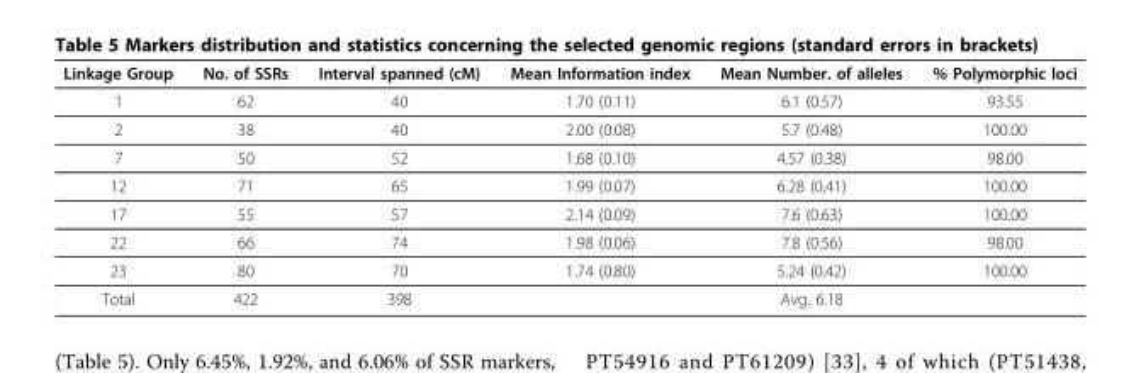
<table><thead><tr><td>Linkage Group</td><td>No. of SSRs</td><td>Interval spanned (cM)</td><td>Mean Information index</td><td>Mean Number. of alleles</td><td>% Polymorphic loci</td></tr></thead><tbody><tr><td>1</td><td>62</td><td>40</td><td>1.70 (0.11)</td><td>6.1 (0.57)</td><td>93.55</td></tr><tr><td>2</td><td>38</td><td>40</td><td>2.00 (0.08)</td><td>5.7 (0.48)</td><td>100.00</td></tr><tr><td>7</td><td>50</td><td>52</td><td>1.68 (0.10)</td><td>4.57 (0.38)</td><td>98.00</td></tr><tr><td>12</td><td>71</td><td>65</td><td>1.99 (0.07)</td><td>6.28 (0,41)</td><td>100.00</td></tr><tr><td>17</td><td>55</td><td>57</td><td>2.14 (0.09)</td><td>7.6 (0.63)</td><td>100.00</td></tr><tr><td>22</td><td>66</td><td>74</td><td>1.98 (0.06)</td><td>7.8 (0.56)</td><td>98.00</td></tr><tr><td>23</td><td>80</td><td>70</td><td>1.74 (0.80)</td><td>5.24 (0.42)</td><td>100.00</td></tr><tr><td>Total</td><td>422</td><td>398</td><td></td><td>Avg. 6.18</td><td></td></tr></tbody></table>